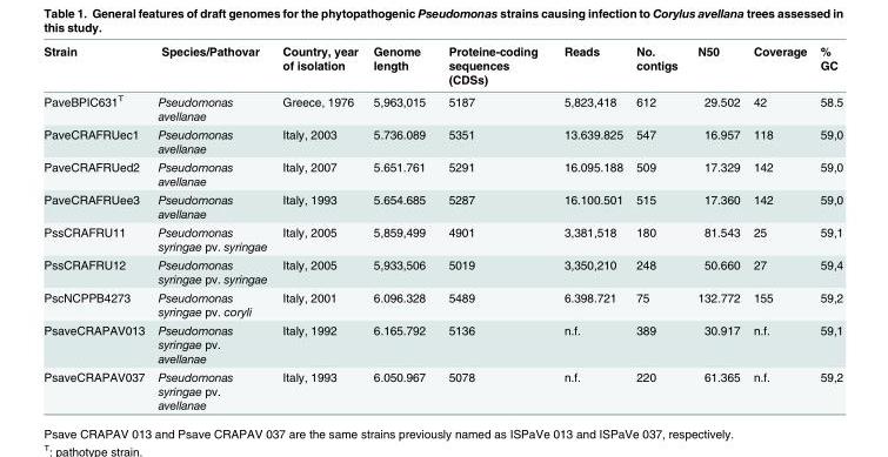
<table><thead><tr><td>Strain</td><td>Species/Pathovar</td><td>Country, year of isolation</td><td>Genome length</td><td>Proteine-coding sequences (CDSs)</td><td>Reads</td><td>No. contigs</td><td>N50</td><td>Coverage</td><td>% GC</td></tr></thead><tbody><tr><td>PaveBPIC631<sup>T</sup></td><td>Pseudomonas avellanae</td><td>Greece, 1976</td><td>5,963,015</td><td>5187</td><td>5,823,418</td><td>612</td><td>29.502</td><td>42</td><td>58.5</td></tr><tr><td>PaveCRAFRUec1</td><td>Pseudomonas avellanae</td><td>Italy, 2003</td><td>5.736.089</td><td>5351</td><td>13.639.825</td><td>547</td><td>16.957</td><td>118</td><td>59,0</td></tr><tr><td>PaveCRAFRUed2</td><td>Pseudomonas avellanae</td><td>Italy, 2007</td><td>5.651.761</td><td>5291</td><td>16.095.188</td><td>509</td><td>17.329</td><td>142</td><td>59,0</td></tr><tr><td>PaveCRAFRUee3</td><td>Pseudomonas avellanae</td><td>Italy, 1993</td><td>5.654.685</td><td>5287</td><td>16.100.501</td><td>515</td><td>17.360</td><td>142</td><td>59,0</td></tr><tr><td>PssCRAFRU11</td><td>Pseudomonas syringae pv. syringae</td><td>Italy, 2005</td><td>5,859,499</td><td>4901</td><td>3,381,518</td><td>180</td><td>81.543</td><td>25</td><td>59,1</td></tr><tr><td>PssCRAFRU12</td><td>Pseudomonas syringae pv. syringae</td><td>Italy, 2005</td><td>5,933,506</td><td>5019</td><td>3,350,210</td><td>248</td><td>50.660</td><td>27</td><td>59,4</td></tr><tr><td>PscNCPPB4273</td><td>Pseudomonas syringae pv. coryli</td><td>Italy, 2001</td><td>6.096.328</td><td>5489</td><td>6.398.721</td><td>75</td><td>132.772</td><td>155</td><td>59,2</td></tr><tr><td>PsaveCRAPAV013</td><td>Pseudomonas syringae pv. avellanae</td><td>Italy, 1992</td><td>6.165.792</td><td>5136</td><td>n.f.</td><td>389</td><td>30.917</td><td>n.f.</td><td>59,1</td></tr><tr><td>PsaveCRAPAV037</td><td>Pseudomonas syringae pv. avellanae</td><td>Italy, 1993</td><td>6.050.967</td><td>5078</td><td>n.f.</td><td>220</td><td>61.365</td><td>n.f.</td><td>59,2</td></tr></tbody></table>